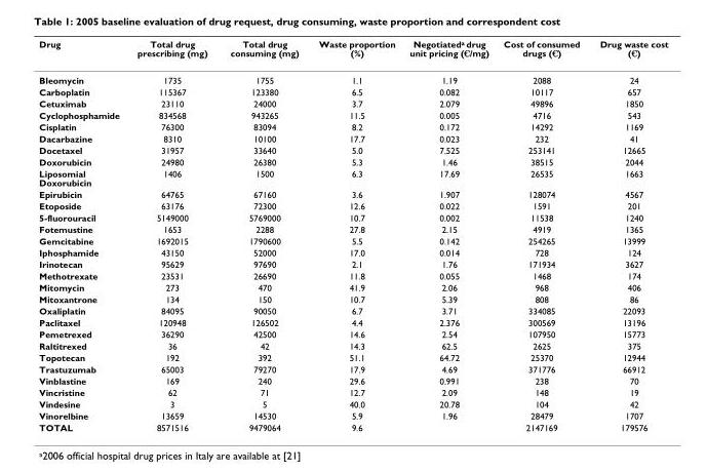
<table><thead><tr><td>Drug</td><td>Total drug prescribing (mg)</td><td>Total drug consuming (mg)</td><td>Waste proportion (%)</td><td>Negotiated<sup>a</sup> drug unit pricing (€/mg)</td><td>Cost of consumed drugs (€)</td><td>Drug waste cost (€)</td></tr></thead><tbody><tr><td>Bleomycin</td><td>1735</td><td>1755</td><td>1.1</td><td>1.19</td><td>2088</td><td>24</td></tr><tr><td>Carboplatin</td><td>115367</td><td>123380</td><td>6.5</td><td>0.082</td><td>10117</td><td>657</td></tr><tr><td>Cetuximab</td><td>23110</td><td>24000</td><td>3.7</td><td>2.079</td><td>49896</td><td>1850</td></tr><tr><td>Cyclophosphamide</td><td>834568</td><td>943265</td><td>11.5</td><td>0.005</td><td>4716</td><td>543</td></tr><tr><td>Cisplatin</td><td>76300</td><td>83094</td><td>8.2</td><td>0.172</td><td>14292</td><td>1169</td></tr><tr><td>Dacarbazine</td><td>8310</td><td>10100</td><td>17.7</td><td>0.023</td><td>232</td><td>41</td></tr><tr><td>Docetaxel</td><td>31957</td><td>33640</td><td>5.0</td><td>7.525</td><td>253141</td><td>12665</td></tr><tr><td>Doxorubicin</td><td>24980</td><td>26380</td><td>5.3</td><td>1.46</td><td>38515</td><td>2044</td></tr><tr><td>Liposomial Doxorubicin</td><td>1406</td><td>1500</td><td>6.3</td><td>17.69</td><td>26535</td><td>1663</td></tr><tr><td>Epirubicin</td><td>64765</td><td>67160</td><td>3.6</td><td>1.907</td><td>128074</td><td>4567</td></tr><tr><td>Etoposide</td><td>63176</td><td>72300</td><td>12.6</td><td>0.022</td><td>1591</td><td>201</td></tr><tr><td>5-fluorouracil</td><td>5149000</td><td>5769000</td><td>10.7</td><td>0.002</td><td>11538</td><td>1240</td></tr><tr><td>Fotemustine</td><td>1653</td><td>2288</td><td>27.8</td><td>2.15</td><td>4919</td><td>1365</td></tr><tr><td>Gemcitabine</td><td>1692015</td><td>1790600</td><td>5.5</td><td>0.142</td><td>254265</td><td>13999</td></tr><tr><td>Iphosphamide</td><td>43150</td><td>52000</td><td>17.0</td><td>0.014</td><td>728</td><td>124</td></tr><tr><td>Irinotecan</td><td>95629</td><td>97690</td><td>2.1</td><td>1.76</td><td>171934</td><td>3627</td></tr><tr><td>Methotrexate</td><td>23531</td><td>26690</td><td>11.8</td><td>0.055</td><td>1468</td><td>174</td></tr><tr><td>Mitomycin</td><td>273</td><td>470</td><td>41.9</td><td>2.06</td><td>968</td><td>406</td></tr><tr><td>Mitoxantrone</td><td>134</td><td>150</td><td>10.7</td><td>5.39</td><td>808</td><td>86</td></tr><tr><td>Oxaliplatin</td><td>84095</td><td>90050</td><td>6.7</td><td>3.71</td><td>334085</td><td>22093</td></tr><tr><td>Paclitaxel</td><td>120948</td><td>126502</td><td>4.4</td><td>2.376</td><td>300569</td><td>13196</td></tr><tr><td>Pemetrexed</td><td>36290</td><td>42500</td><td>14.6</td><td>2.54</td><td>107950</td><td>15773</td></tr><tr><td>Raltitrexed</td><td>36</td><td>42</td><td>14.3</td><td>62.5</td><td>2625</td><td>375</td></tr><tr><td>Topotecan</td><td>192</td><td>392</td><td>51.1</td><td>64.72</td><td>25370</td><td>12944</td></tr><tr><td>Trastuzumab</td><td>65003</td><td>79270</td><td>17.9</td><td>4.69</td><td>371776</td><td>66912</td></tr><tr><td>Vinblastine</td><td>169</td><td>240</td><td>29.6</td><td>0.991</td><td>238</td><td>70</td></tr><tr><td>Vincristine</td><td>62</td><td>71</td><td>12.7</td><td>2.09</td><td>148</td><td>19</td></tr><tr><td>Vindesine</td><td>3</td><td>5</td><td>40.0</td><td>20.78</td><td>104</td><td>42</td></tr><tr><td>Vinorelbine</td><td>13659</td><td>14530</td><td>5.9</td><td>1.96</td><td>28479</td><td>1707</td></tr><tr><td>TOTAL</td><td>8571516</td><td>9479064</td><td>9.6</td><td></td><td>2147169</td><td>179576</td></tr></tbody></table>